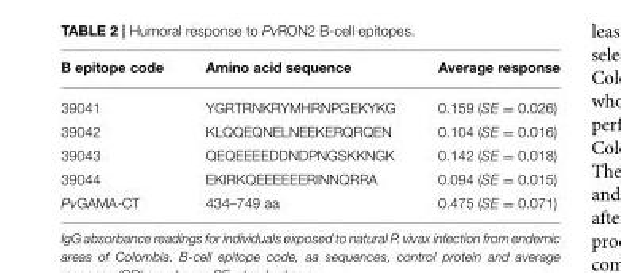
<table><thead><tr><td>B epitope code</td><td>Amino acid sequence</td><td>Average response</td></tr></thead><tbody><tr><td>39041</td><td>YGRTRNKRYMHRNPGEKYKG</td><td>0.159 (SE = 0.026)</td></tr><tr><td>39042</td><td>KLQQEQNELNEEKERQRQEN</td><td>0.104 (SE = 0.016)</td></tr><tr><td>39043</td><td>QEQEEEEDDNDPNGSKKNGK</td><td>0.142 (SE = 0.018)</td></tr><tr><td>39044</td><td>EKIRKQEEEEEERINNQRRA</td><td>0.094 (SE = 0.015)</td></tr><tr><td>PvGAMA-CT</td><td>434–749 aa</td><td>0.475 (SE = 0.071)</td></tr></tbody></table>